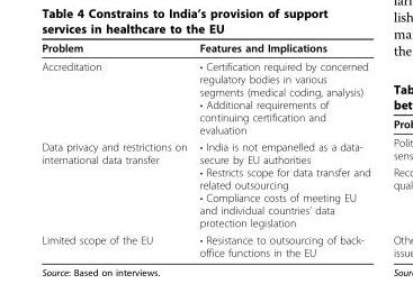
<table><thead><tr><td>Problem</td><td>Features and Implications</td></tr></thead><tbody><tr><td>Accreditation</td><td>• Certification required by concerned regulatory bodies in various segments (medical coding, analysis) • Additional requirements of continuing certification and evaluation</td></tr><tr><td>Data privacy and restrictions on international data transfer</td><td>• India is not empanelled as a data- secure by EU authorities • Restricts scope for data transfer and related outsourcing • Compliance costs of meeting EU and individual countries’ data protection legislation</td></tr><tr><td>Limited scope of the EU</td><td>• Resistance to outsourcing of back- office functions in the EU</td></tr></tbody></table>